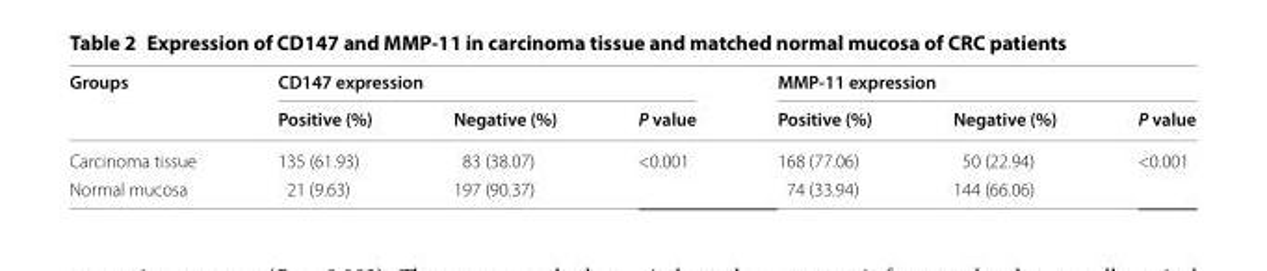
<table><thead><tr><td rowspan="2">Groups</td><td colspan="3">CD147 expression</td><td colspan="3">MMP‑11 expression</td></tr><tr><td>Positive (%)</td><td>Negative (%)</td><td>P value</td><td>Positive (%)</td><td>Negative (%)</td><td>P value</td></tr></thead><tbody><tr><td>Carcinoma tissue</td><td>135 (61.93)</td><td>83 (38.07)</td><td rowspan="2">&lt;0.001</td><td>168 (77.06)</td><td>50 (22.94)</td><td rowspan="2">&lt;0.001</td></tr><tr><td>Normal mucosa</td><td>21 (9.63)</td><td>197 (90.37)</td><td>74 (33.94)</td><td>144 (66.06)</td></tr></tbody></table>